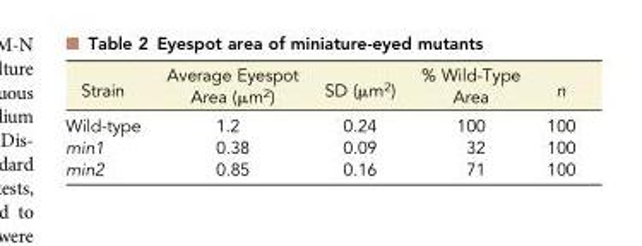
<table><thead><tr><td>Strain</td><td>Average Eyespot Area (μm<sup>2</sup>)</td><td>SD (μm<sup>2</sup>)</td><td>% Wild-Type Area</td><td>n</td></tr></thead><tbody><tr><td>Wild-type</td><td>1.2</td><td>0.24</td><td>100</td><td>100</td></tr><tr><td>min1</td><td>0.38</td><td>0.09</td><td>32</td><td>100</td></tr><tr><td>min2</td><td>0.85</td><td>0.16</td><td>71</td><td>100</td></tr></tbody></table>